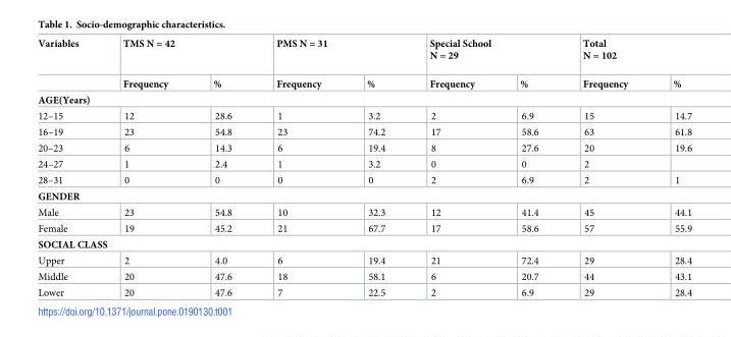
<table><thead><tr><td rowspan="2">Variables</td><td colspan="2">TMS N = 42</td><td colspan="2">PMS N = 31</td><td colspan="2">Special School N = 29</td><td colspan="2">Total N = 102</td></tr><tr><td>Frequency</td><td>%</td><td>Frequency</td><td>%</td><td>Frequency</td><td>%</td><td>Frequency</td><td>%</td></tr></thead><tbody><tr><td colspan="9">AGE(Years)</td></tr><tr><td>12–15</td><td>12</td><td>28.6</td><td>1</td><td>3.2</td><td>2</td><td>6.9</td><td>15</td><td>14.7</td></tr><tr><td>16–19</td><td>23</td><td>54.8</td><td>23</td><td>74.2</td><td>17</td><td>58.6</td><td>63</td><td>61.8</td></tr><tr><td>20–23</td><td>6</td><td>14.3</td><td>6</td><td>19.4</td><td>8</td><td>27.6</td><td>20</td><td>19.6</td></tr><tr><td>24–27</td><td>1</td><td>2.4</td><td>1</td><td>3.2</td><td>0</td><td>0</td><td>2</td><td></td></tr><tr><td>28–31</td><td>0</td><td>0</td><td>0</td><td>0</td><td>2</td><td>6.9</td><td>2</td><td>1</td></tr><tr><td colspan="9">GENDER</td></tr><tr><td>Male</td><td>23</td><td>54.8</td><td>10</td><td>32.3</td><td>12</td><td>41.4</td><td>45</td><td>44.1</td></tr><tr><td>Female</td><td>19</td><td>45.2</td><td>21</td><td>67.7</td><td>17</td><td>58.6</td><td>57</td><td>55.9</td></tr><tr><td colspan="9">SOCIAL CLASS</td></tr><tr><td>Upper</td><td>2</td><td>4.0</td><td>6</td><td>19.4</td><td>21</td><td>72.4</td><td>29</td><td>28.4</td></tr><tr><td>Middle</td><td>20</td><td>47.6</td><td>18</td><td>58.1</td><td>6</td><td>20.7</td><td>44</td><td>43.1</td></tr><tr><td>Lower</td><td>20</td><td>47.6</td><td>7</td><td>22.5</td><td>2</td><td>6.9</td><td>29</td><td>28.4</td></tr></tbody></table>